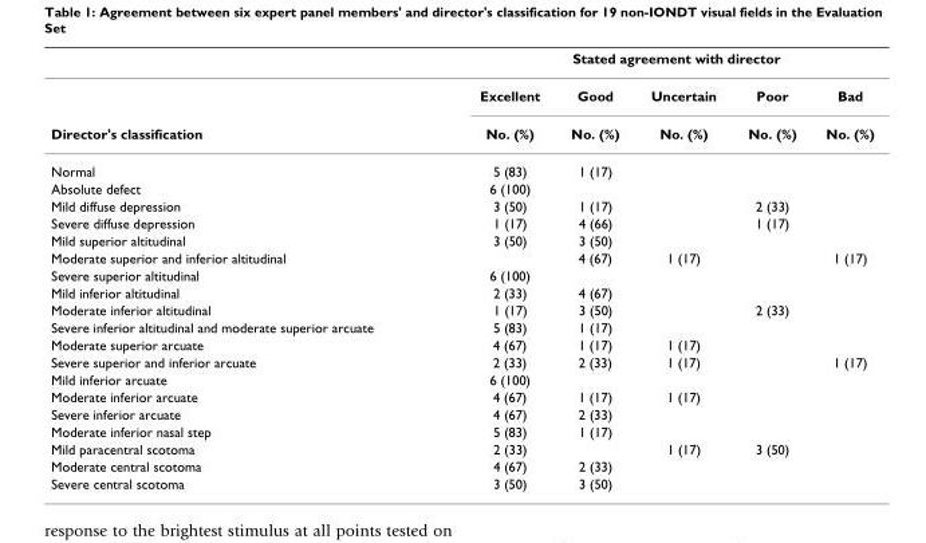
<table><thead><tr><td rowspan="2"></td><td colspan="5">Stated agreement with director</td></tr><tr><td>Excellent</td><td>Good</td><td>Uncertain</td><td>Poor</td><td>Bad</td></tr></thead><tbody><tr><td>Director&#x27;s classification</td><td>No. (%)</td><td>No. (%)</td><td>No. (%)</td><td>No. (%)</td><td>No. (%)</td></tr><tr><td>Normal</td><td>5 (83)</td><td>1 (17)</td><td></td><td></td><td></td></tr><tr><td>Absolute defect</td><td>6 (100)</td><td></td><td></td><td></td><td></td></tr><tr><td>Mild diffuse depression</td><td>3 (50)</td><td>1 (17)</td><td></td><td>2 (33)</td><td></td></tr><tr><td>Severe diffuse depression</td><td>1 (17)</td><td>4 (66)</td><td></td><td>1 (17)</td><td></td></tr><tr><td>Mild superior altitudinal</td><td>3 (50)</td><td>3 (50)</td><td></td><td></td><td></td></tr><tr><td>Moderate superior and inferior altitudinal</td><td></td><td>4 (67)</td><td>1 (17)</td><td></td><td>1 (17)</td></tr><tr><td>Severe superior altitudinal</td><td>6 (100)</td><td></td><td></td><td></td><td></td></tr><tr><td>Mild inferior altitudinal</td><td>2 (33)</td><td>4 (67)</td><td></td><td></td><td></td></tr><tr><td>Moderate inferior altitudinal</td><td>1 (17)</td><td>3 (50)</td><td></td><td>2 (33)</td><td></td></tr><tr><td>Severe inferior altitudinal and moderate superior arcuate</td><td>5 (83)</td><td>1 (17)</td><td></td><td></td><td></td></tr><tr><td>Moderate superior arcuate</td><td>4 (67)</td><td>1 (17)</td><td>1 (17)</td><td></td><td></td></tr><tr><td>Severe superior and inferior arcuate</td><td>2 (33)</td><td>2 (33)</td><td>1 (17)</td><td></td><td>1 (17)</td></tr><tr><td>Mild inferior arcuate</td><td>6 (100)</td><td></td><td></td><td></td><td></td></tr><tr><td>Moderate inferior arcuate</td><td>4 (67)</td><td>1 (17)</td><td>1 (17)</td><td></td><td></td></tr><tr><td>Severe inferior arcuate</td><td>4 (67)</td><td>2 (33)</td><td></td><td></td><td></td></tr><tr><td>Moderate inferior nasal step</td><td>5 (83)</td><td>1 (17)</td><td></td><td></td><td></td></tr><tr><td>Mild paracentral scotoma</td><td>2 (33)</td><td></td><td>1 (17)</td><td>3 (50)</td><td></td></tr><tr><td>Moderate central scotoma</td><td>4 (67)</td><td>2 (33)</td><td></td><td></td><td></td></tr><tr><td>Severe central scotoma</td><td>3 (50)</td><td>3 (50)</td><td></td><td></td><td></td></tr></tbody></table>